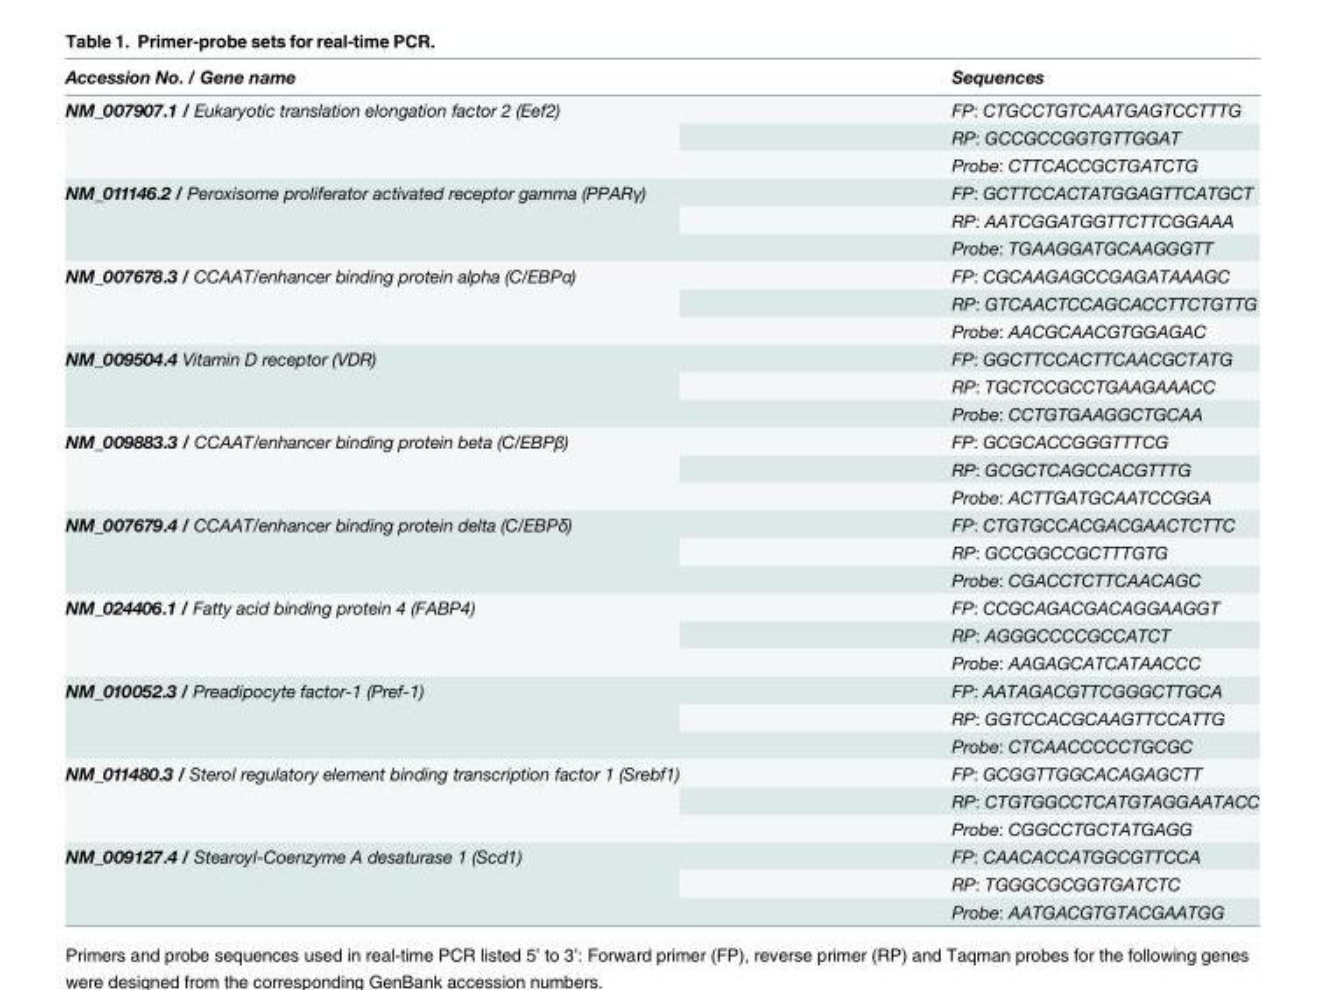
<table><thead><tr><td>Accession No. / Gene name</td><td>Sequences</td></tr></thead><tbody><tr><td rowspan="3">NM_007907.1 / Eukaryotic translation elongation factor 2 (Eef2)</td><td>FP: CTGCCTGTCAATGAGTCCTTTG</td></tr><tr><td>RP: GCCGCCGGTGTTGGAT</td></tr><tr><td>Probe: CTTCACCGCTGATCTG</td></tr><tr><td rowspan="3">NM_011146.2 / Peroxisome proliferator activated receptor gamma (PPARγ)</td><td>FP: GCTTCCACTATGGAGTTCATGCT</td></tr><tr><td>RP: AATCGGATGGTTCTTCGGAAA</td></tr><tr><td>Probe: TGAAGGATGCAAGGGTT</td></tr><tr><td rowspan="3">NM_007678.3 / CCAAT/enhancer binding protein alpha (C/EBPα)</td><td>FP: CGCAAGAGCCGAGATAAAGC</td></tr><tr><td>RP: GTCAACTCCAGCACCTTCTGTTG</td></tr><tr><td>Probe: AACGCAACGTGGAGAC</td></tr><tr><td rowspan="3">NM_009504.4 Vitamin D receptor (VDR)</td><td>FP: GGCTTCCACTTCAACGCTATG</td></tr><tr><td>RP: TGCTCCGCCTGAAGAAACC</td></tr><tr><td>Probe: CCTGTGAAGGCTGCAA</td></tr><tr><td rowspan="3">NM_009883.3 / CCAAT/enhancer binding protein beta (C/EBPβ)</td><td>FP: GCGCACCGGGTTTCG</td></tr><tr><td>RP: GCGCTCAGCCACGTTTG</td></tr><tr><td>Probe: ACTTGATGCAATCCGGA</td></tr><tr><td rowspan="3">NM_007679.4 / CCAAT/enhancer binding protein delta (C/EBPδ)</td><td>FP: CTGTGCCACGACGAACTCTTC</td></tr><tr><td>RP: GCCGGCCGCTTTGTG</td></tr><tr><td>Probe: CGACCTCTTCAACAGC</td></tr><tr><td rowspan="3">NM_024406.1 / Fatty acid binding protein 4 (FABP4)</td><td>FP: CCGCAGACGACAGGAAGGT</td></tr><tr><td>RP: AGGGCCCCGCCATCT</td></tr><tr><td>Probe: AAGAGCATCATAACCC</td></tr><tr><td rowspan="3">NM_010052.3 / Preadipocyte factor-1 (Pref-1)</td><td>FP: AATAGACGTTCGGGCTTGCA</td></tr><tr><td>RP: GGTCCACGCAAGTTCCATTG</td></tr><tr><td>Probe: CTCAACCCCCTGCGC</td></tr><tr><td rowspan="3">NM_011480.3 / Sterol regulatory element binding transcription factor 1 (Srebf1)</td><td>FP: GCGGTTGGCACAGAGCTT</td></tr><tr><td>RP: CTGTGGCCTCATGTAGGAATACC</td></tr><tr><td>Probe: CGGCCTGCTATGAGG</td></tr><tr><td rowspan="3">NM_009127.4 / Stearoyl-Coenzyme A desaturase 1 (Scd1)</td><td>FP: CAACACCATGGCGTTCCA</td></tr><tr><td>RP: TGGGCGCGGTGATCTC</td></tr><tr><td>Probe: AATGACGTGTACGAATGG</td></tr></tbody></table>